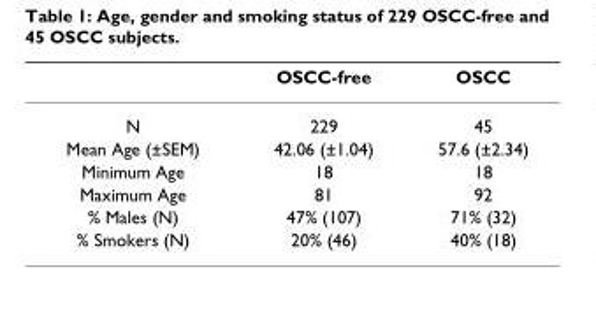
<table><thead><tr><td></td><td>OSCC-free</td><td>OSCC</td></tr></thead><tbody><tr><td>N</td><td>229</td><td>45</td></tr><tr><td>Mean Age (±SEM)</td><td>42.06 (±1.04)</td><td>57.6 (±2.34)</td></tr><tr><td>Minimum Age</td><td>18</td><td>18</td></tr><tr><td>Maximum Age</td><td>81</td><td>92</td></tr><tr><td>% Males (N)</td><td>47% (107)</td><td>71% (32)</td></tr><tr><td>% Smokers (N)</td><td>20% (46)</td><td>40% (18)</td></tr></tbody></table>